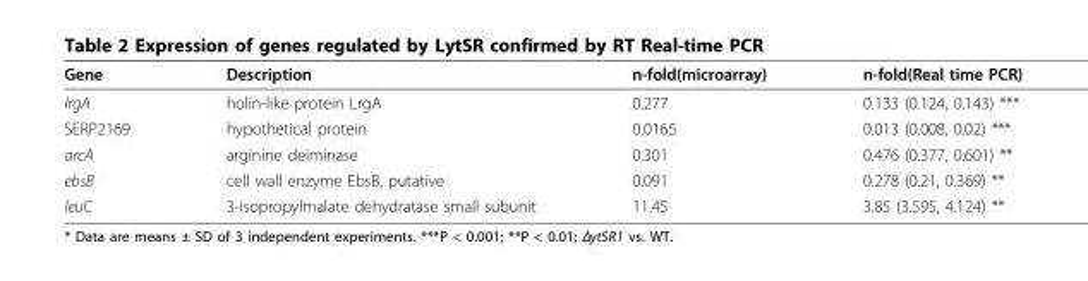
<table><thead><tr><td>Gene</td><td>Description</td><td>n-fold(microarray)</td><td>n-fold(Real time PCR)</td></tr></thead><tbody><tr><td>lrgA</td><td>holin-like protein LrgA</td><td>0.277</td><td>0.133 (0.124, 0.143) ***</td></tr><tr><td>SERP2169</td><td>hypothetical protein</td><td>0.0165</td><td>0.013 (0.008, 0.02) ***</td></tr><tr><td>arcA</td><td>arginine deiminase</td><td>0.301</td><td>0.476 (0.377, 0.601) **</td></tr><tr><td>ebsB</td><td>cell wall enzyme EbsB, putative</td><td>0.091</td><td>0.278 (0.21, 0.369) **</td></tr><tr><td>leuC</td><td>3-isopropylmalate dehydratase small subunit</td><td>11.45</td><td>3.85 (3.595, 4.124) **</td></tr></tbody></table>